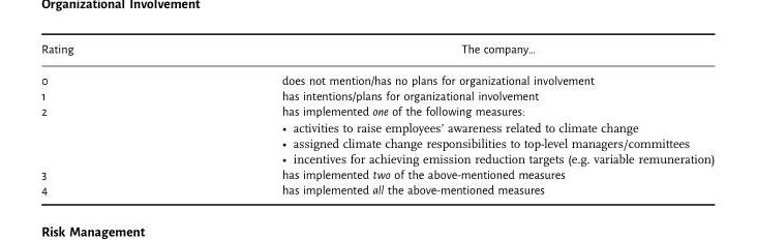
<table><thead><tr><td>Rating</td><td>The company…</td></tr></thead><tbody><tr><td>0</td><td>does not mention/has no plans for organizational involvement</td></tr><tr><td>1</td><td>has intentions/plans for organizational involvement</td></tr><tr><td>2</td><td>has implemented one of the following measures: • activities to raise employees’ awareness related to climate change • assigned climate change responsibilities to top-level managers/committees • incentives for achieving emission reduction targets (e.g. variable remuneration)</td></tr><tr><td>3</td><td>has implemented two of the above-mentioned measures</td></tr><tr><td>4</td><td>has implemented all the above-mentioned measures</td></tr></tbody></table>